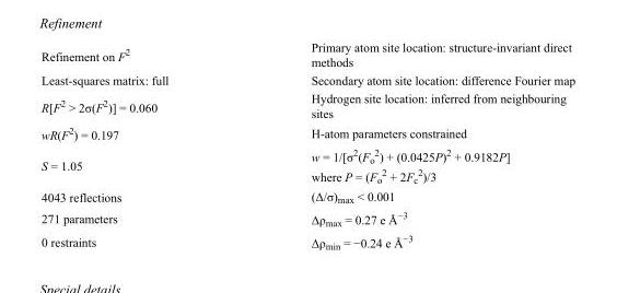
<table><tbody><tr><td>Refinement on F<sup>2</sup></td><td>Primary atom site location: structure-invariant direct methods</td></tr><tr><td>Least-squares matrix: full</td><td>Secondary atom site location: difference Fourier map</td></tr><tr><td>R[F<sup>2</sup> &gt; 2σ(F<sup>2</sup>)] = 0.060</td><td>Hydrogen site location: inferred from neighbouring sites</td></tr><tr><td>wR(F<sup>2</sup>) = 0.197</td><td>H-atom parameters constrained</td></tr><tr><td>S = 1.05</td><td>w = 1/[σ<sup>2</sup>(F<sub>o</sub> <sup>2</sup>) + (0.0425P)<sup>2</sup> + 0.9182P] where P = (F<sub>o</sub> <sup>2</sup> + 2F<sub>c</sub> <sup>2</sup>)/3</td></tr><tr><td>4043 reflections</td><td>(Δ/σ)<sub>max</sub> &lt; 0.001</td></tr><tr><td>271 parameters</td><td>Δρ<sub>max</sub> = 0.27 e Å<sup>−3</sup></td></tr><tr><td>0 restraints</td><td>Δρ<sub>min</sub> = −0.24 e Å<sup>−3</sup></td></tr></tbody></table>